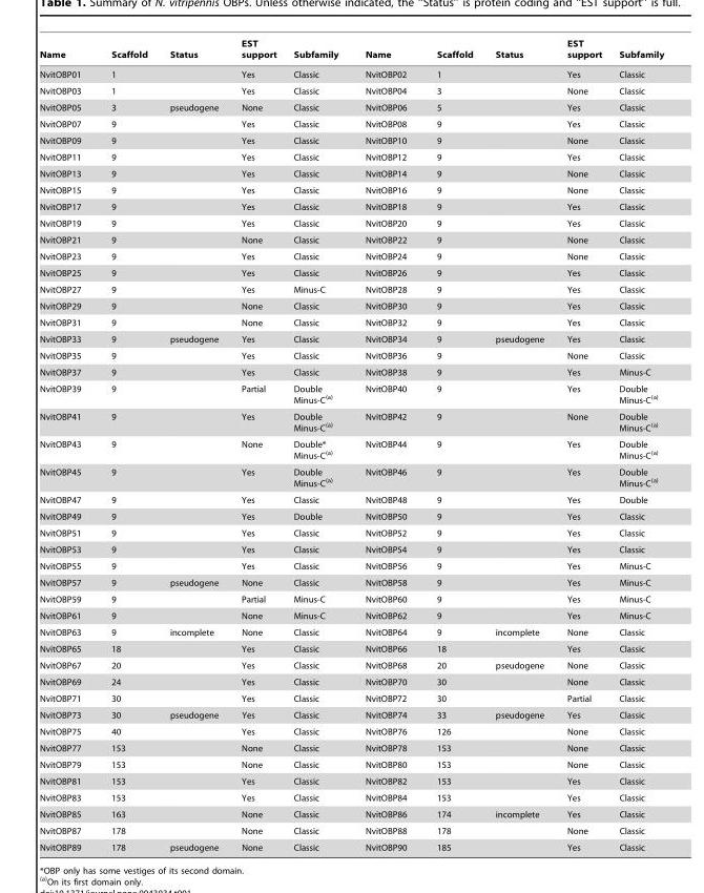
<table><thead><tr><td>Name</td><td>Scaffold</td><td>Status</td><td>EST support</td><td>Subfamily</td><td>Name</td><td>Scaffold</td><td>Status</td><td>EST support</td><td>Subfamily</td></tr></thead><tbody><tr><td>NvitOBP01</td><td>1</td><td></td><td>Yes</td><td>Classic</td><td>NvitOBP02</td><td>1</td><td></td><td>Yes</td><td>Classic</td></tr><tr><td>NvitOBP03</td><td>1</td><td></td><td>Yes</td><td>Classic</td><td>NvitOBP04</td><td>3</td><td></td><td>None</td><td>Classic</td></tr><tr><td>NvitOBP05</td><td>3</td><td>pseudogene</td><td>None</td><td>Classic</td><td>NvitOBP06</td><td>5</td><td></td><td>Yes</td><td>Classic</td></tr><tr><td>NvitOBP07</td><td>9</td><td></td><td>Yes</td><td>Classic</td><td>NvitOBP08</td><td>9</td><td></td><td>Yes</td><td>Classic</td></tr><tr><td>NvitOBP09</td><td>9</td><td></td><td>Yes</td><td>Classic</td><td>NvitOBP10</td><td>9</td><td></td><td>None</td><td>Classic</td></tr><tr><td>NvitOBP11</td><td>9</td><td></td><td>Yes</td><td>Classic</td><td>NvitOBP12</td><td>9</td><td></td><td>Yes</td><td>Classic</td></tr><tr><td>NvitOBP13</td><td>9</td><td></td><td>Yes</td><td>Classic</td><td>NvitOBP14</td><td>9</td><td></td><td>None</td><td>Classic</td></tr><tr><td>NvitOBP15</td><td>9</td><td></td><td>Yes</td><td>Classic</td><td>NvitOBP16</td><td>9</td><td></td><td>None</td><td>Classic</td></tr><tr><td>NvitOBP17</td><td>9</td><td></td><td>Yes</td><td>Classic</td><td>NvitOBP18</td><td>9</td><td></td><td>Yes</td><td>Classic</td></tr><tr><td>NvitOBP19</td><td>9</td><td></td><td>Yes</td><td>Classic</td><td>NvitOBP20</td><td>9</td><td></td><td>Yes</td><td>Classic</td></tr><tr><td>NvitOBP21</td><td>9</td><td></td><td>None</td><td>Classic</td><td>NvitOBP22</td><td>9</td><td></td><td>None</td><td>Classic</td></tr><tr><td>NvitOBP23</td><td>9</td><td></td><td>Yes</td><td>Classic</td><td>NvitOBP24</td><td>9</td><td></td><td>None</td><td>Classic</td></tr><tr><td>NvitOBP25</td><td>9</td><td></td><td>Yes</td><td>Classic</td><td>NvitOBP26</td><td>9</td><td></td><td>Yes</td><td>Classic</td></tr><tr><td>NvitOBP27</td><td>9</td><td></td><td>Yes</td><td>Minus-C</td><td>NvitOBP28</td><td>9</td><td></td><td>Yes</td><td>Classic</td></tr><tr><td>NvitOBP29</td><td>9</td><td></td><td>None</td><td>Classic</td><td>NvitOBP30</td><td>9</td><td></td><td>Yes</td><td>Classic</td></tr><tr><td>NvitOBP31</td><td>9</td><td></td><td>None</td><td>Classic</td><td>NvitOBP32</td><td>9</td><td></td><td>Yes</td><td>Classic</td></tr><tr><td>NvitOBP33</td><td>9</td><td>pseudogene</td><td>Yes</td><td>Classic</td><td>NvitOBP34</td><td>9</td><td>pseudogene</td><td>Yes</td><td>Classic</td></tr><tr><td>NvitOBP35</td><td>9</td><td></td><td>Yes</td><td>Classic</td><td>NvitOBP36</td><td>9</td><td></td><td>None</td><td>Classic</td></tr><tr><td>NvitOBP37</td><td>9</td><td></td><td>Yes</td><td>Classic</td><td>NvitOBP38</td><td>9</td><td></td><td>Yes</td><td>Minus-C</td></tr><tr><td>NvitOBP39</td><td>9</td><td></td><td>Partial</td><td>Double Minus-C(a)</td><td>NvitOBP40</td><td>9</td><td></td><td>Yes</td><td>Double Minus-C(a)</td></tr><tr><td>NvitOBP41</td><td>9</td><td></td><td>Yes</td><td>Double Minus-C(a)</td><td>NvitOBP42</td><td>9</td><td></td><td>None</td><td>Double Minus-C(a)</td></tr><tr><td>NvitOBP43</td><td>9</td><td></td><td>None</td><td>Double* Minus-C(a)</td><td>NvitOBP44</td><td>9</td><td></td><td>Yes</td><td>Double Minus-C(a)</td></tr><tr><td>NvitOBP45</td><td>9</td><td></td><td>Yes</td><td>Double Minus-C(a)</td><td>NvitOBP46</td><td>9</td><td></td><td>Yes</td><td>Double Minus-C(a)</td></tr><tr><td>NvitOBP47</td><td>9</td><td></td><td>Yes</td><td>Classic</td><td>NvitOBP48</td><td>9</td><td></td><td>Yes</td><td>Double</td></tr><tr><td>NvitOBP49</td><td>9</td><td></td><td>Yes</td><td>Double</td><td>NvitOBP50</td><td>9</td><td></td><td>Yes</td><td>Classic</td></tr><tr><td>NvitOBP51</td><td>9</td><td></td><td>Yes</td><td>Classic</td><td>NvitOBP52</td><td>9</td><td></td><td>Yes</td><td>Classic</td></tr><tr><td>NvitOBP53</td><td>9</td><td></td><td>Yes</td><td>Classic</td><td>NvitOBP54</td><td>9</td><td></td><td>Yes</td><td>Classic</td></tr><tr><td>NvitOBP55</td><td>9</td><td></td><td>Yes</td><td>Classic</td><td>NvitOBP56</td><td>9</td><td></td><td>Yes</td><td>Minus-C</td></tr><tr><td>NvitOBP57</td><td>9</td><td>pseudogene</td><td>None</td><td>Classic</td><td>NvitOBP58</td><td>9</td><td></td><td>Yes</td><td>Minus-C</td></tr><tr><td>NvitOBP59</td><td>9</td><td></td><td>Partial</td><td>Minus-C</td><td>NvitOBP60</td><td>9</td><td></td><td>Yes</td><td>Minus-C</td></tr><tr><td>NvitOBP61</td><td>9</td><td></td><td>None</td><td>Minus-C</td><td>NvitOBP62</td><td>9</td><td></td><td>Yes</td><td>Minus-C</td></tr><tr><td>NvitOBP63</td><td>9</td><td>incomplete</td><td>None</td><td>Classic</td><td>NvitOBP64</td><td>9</td><td>incomplete</td><td>None</td><td>Classic</td></tr><tr><td>NvitOBP65</td><td>18</td><td></td><td>Yes</td><td>Classic</td><td>NvitOBP66</td><td>18</td><td></td><td>Yes</td><td>Classic</td></tr><tr><td>NvitOBP67</td><td>20</td><td></td><td>Yes</td><td>Classic</td><td>NvitOBP68</td><td>20</td><td>pseudogene</td><td>None</td><td>Classic</td></tr><tr><td>NvitOBP69</td><td>24</td><td></td><td>Yes</td><td>Classic</td><td>NvitOBP70</td><td>30</td><td></td><td>None</td><td>Classic</td></tr><tr><td>NvitOBP71</td><td>30</td><td></td><td>Yes</td><td>Classic</td><td>NvitOBP72</td><td>30</td><td></td><td>Partial</td><td>Classic</td></tr><tr><td>NvitOBP73</td><td>30</td><td>pseudogene</td><td>Yes</td><td>Classic</td><td>NvitOBP74</td><td>33</td><td>pseudogene</td><td>Yes</td><td>Classic</td></tr><tr><td>NvitOBP75</td><td>40</td><td></td><td>Yes</td><td>Classic</td><td>NvitOBP76</td><td>126</td><td></td><td>None</td><td>Classic</td></tr><tr><td>NvitOBP77</td><td>153</td><td></td><td>None</td><td>Classic</td><td>NvitOBP78</td><td>153</td><td></td><td>None</td><td>Classic</td></tr><tr><td>NvitOBP79</td><td>153</td><td></td><td>None</td><td>Classic</td><td>NvitOBP80</td><td>153</td><td></td><td>None</td><td>Classic</td></tr><tr><td>NvitOBP81</td><td>153</td><td></td><td>Yes</td><td>Classic</td><td>NvitOBP82</td><td>153</td><td></td><td>Yes</td><td>Classic</td></tr><tr><td>NvitOBP83</td><td>153</td><td></td><td>Yes</td><td>Classic</td><td>NvitOBP84</td><td>153</td><td></td><td>Yes</td><td>Classic</td></tr><tr><td>NvitOBP85</td><td>163</td><td></td><td>None</td><td>Classic</td><td>NvitOBP86</td><td>174</td><td>incomplete</td><td>Yes</td><td>Classic</td></tr><tr><td>NvitOBP87</td><td>178</td><td></td><td>None</td><td>Classic</td><td>NvitOBP88</td><td>178</td><td></td><td>None</td><td>Classic</td></tr><tr><td>NvitOBP89</td><td>178</td><td>pseudogene</td><td>None</td><td>Classic</td><td>NvitOBP90</td><td>185</td><td></td><td>Yes</td><td>Classic</td></tr></tbody></table>